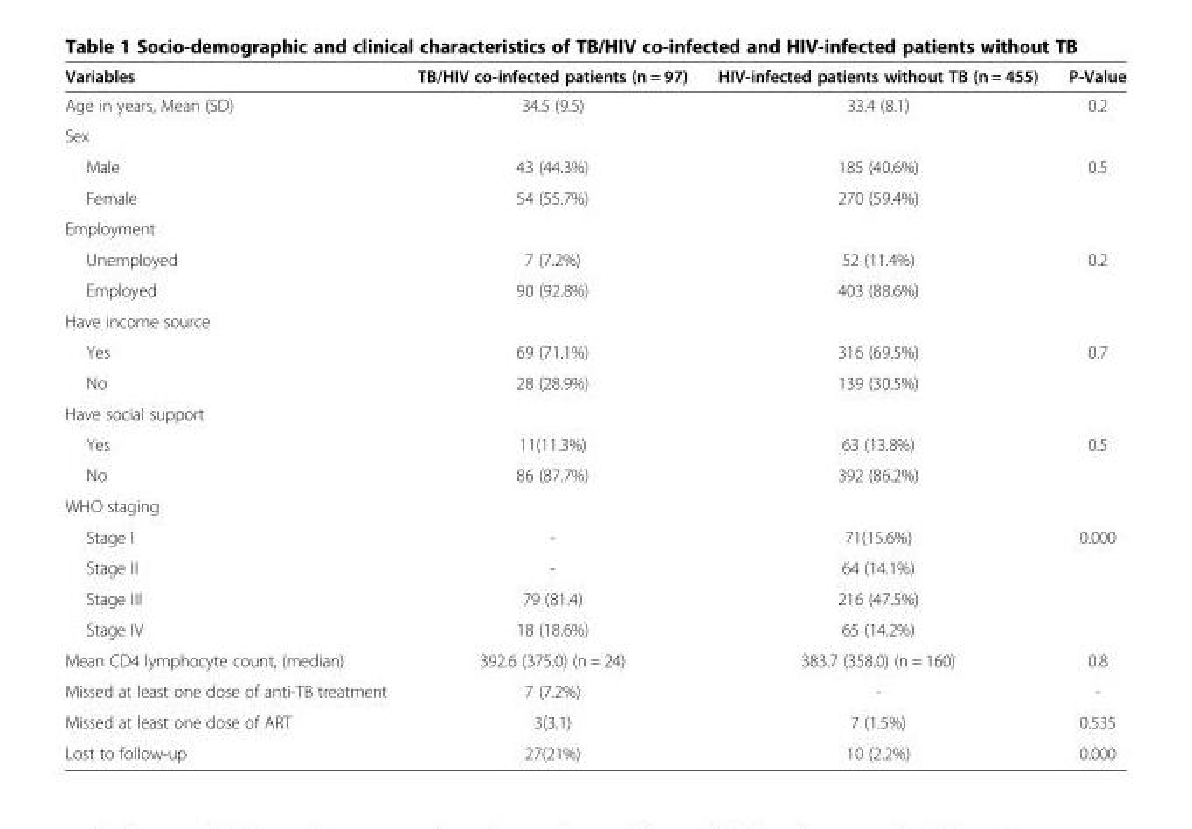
<table><thead><tr><td>Variables</td><td>TB/HIV co-infected patients (n = 97)</td><td>HIV-infected patients without TB (n = 455)</td><td>P-Value</td></tr></thead><tbody><tr><td>Age in years, Mean (SD)</td><td>34.5 (9.5)</td><td>33.4 (8.1)</td><td>0.2</td></tr><tr><td colspan="4">Sex</td></tr><tr><td>Male</td><td>43 (44.3%)</td><td>185 (40.6%)</td><td>0.5</td></tr><tr><td>Female</td><td>54 (55.7%)</td><td>270 (59.4%)</td><td></td></tr><tr><td colspan="4">Employment</td></tr><tr><td>Unemployed</td><td>7 (7.2%)</td><td>52 (11.4%)</td><td>0.2</td></tr><tr><td>Employed</td><td>90 (92.8%)</td><td>403 (88.6%)</td><td></td></tr><tr><td colspan="4">Have income source</td></tr><tr><td>Yes</td><td>69 (71.1%)</td><td>316 (69.5%)</td><td>0.7</td></tr><tr><td>No</td><td>28 (28.9%)</td><td>139 (30.5%)</td><td></td></tr><tr><td colspan="4">Have social support</td></tr><tr><td>Yes</td><td>11(11.3%)</td><td>63 (13.8%)</td><td>0.5</td></tr><tr><td>No</td><td>86 (87.7%)</td><td>392 (86.2%)</td><td></td></tr><tr><td colspan="4">WHO staging</td></tr><tr><td>Stage I</td><td>-</td><td>71(15.6%)</td><td>0.000</td></tr><tr><td>Stage II</td><td>-</td><td>64 (14.1%)</td><td></td></tr><tr><td>Stage III</td><td>79 (81.4)</td><td>216 (47.5%)</td><td></td></tr><tr><td>Stage IV</td><td>18 (18.6%)</td><td>65 (14.2%)</td><td></td></tr><tr><td>Mean CD4 lymphocyte count, (median)</td><td>392.6 (375.0) (n = 24)</td><td>383.7 (358.0) (n = 160)</td><td>0.8</td></tr><tr><td>Missed at least one dose of anti-TB treatment</td><td>7 (7.2%)</td><td>-</td><td>-</td></tr><tr><td>Missed at least one dose of ART</td><td>3(3.1)</td><td>7 (1.5%)</td><td>0.535</td></tr><tr><td>Lost to follow-up</td><td>27(21%)</td><td>10 (2.2%)</td><td>0.000</td></tr></tbody></table>